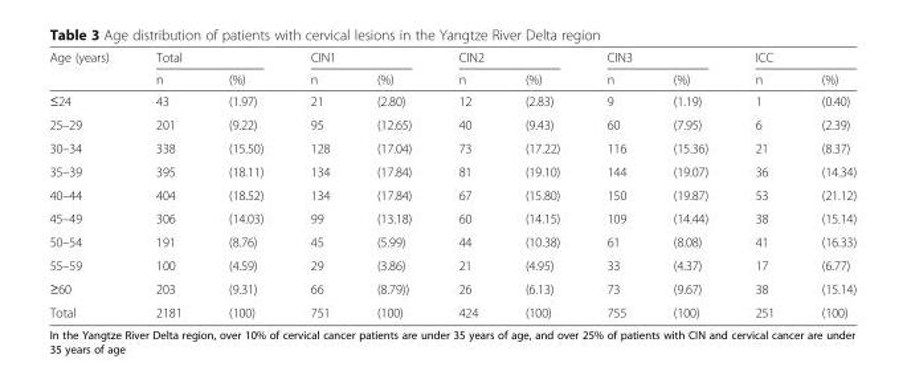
<table><thead><tr><td rowspan="2">Age (years)</td><td colspan="2">Total</td><td colspan="2">CIN1</td><td colspan="2">CIN2</td><td colspan="2">CIN3</td><td colspan="2">ICC</td></tr><tr><td>n</td><td>(%)</td><td>n</td><td>(%)</td><td>n</td><td>(%)</td><td>n</td><td>(%)</td><td>n</td><td>(%)</td></tr></thead><tbody><tr><td>≤24</td><td>43</td><td>(1.97)</td><td>21</td><td>(2.80)</td><td>12</td><td>(2.83)</td><td>9</td><td>(1.19)</td><td>1</td><td>(0.40)</td></tr><tr><td>25–29</td><td>201</td><td>(9.22)</td><td>95</td><td>(12.65)</td><td>40</td><td>(9.43)</td><td>60</td><td>(7.95)</td><td>6</td><td>(2.39)</td></tr><tr><td>30–34</td><td>338</td><td>(15.50)</td><td>128</td><td>(17.04)</td><td>73</td><td>(17.22)</td><td>116</td><td>(15.36)</td><td>21</td><td>(8.37)</td></tr><tr><td>35–39</td><td>395</td><td>(18.11)</td><td>134</td><td>(17.84)</td><td>81</td><td>(19.10)</td><td>144</td><td>(19.07)</td><td>36</td><td>(14.34)</td></tr><tr><td>40–44</td><td>404</td><td>(18.52)</td><td>134</td><td>(17.84)</td><td>67</td><td>(15.80)</td><td>150</td><td>(19.87)</td><td>53</td><td>(21.12)</td></tr><tr><td>45–49</td><td>306</td><td>(14.03)</td><td>99</td><td>(13.18)</td><td>60</td><td>(14.15)</td><td>109</td><td>(14.44)</td><td>38</td><td>(15.14)</td></tr><tr><td>50–54</td><td>191</td><td>(8.76)</td><td>45</td><td>(5.99)</td><td>44</td><td>(10.38)</td><td>61</td><td>(8.08)</td><td>41</td><td>(16.33)</td></tr><tr><td>55–59</td><td>100</td><td>(4.59)</td><td>29</td><td>(3.86)</td><td>21</td><td>(4.95)</td><td>33</td><td>(4.37)</td><td>17</td><td>(6.77)</td></tr><tr><td>≥60</td><td>203</td><td>(9.31)</td><td>66</td><td>(8.79))</td><td>26</td><td>(6.13)</td><td>73</td><td>(9.67)</td><td>38</td><td>(15.14)</td></tr><tr><td>Total</td><td>2181</td><td>(100)</td><td>751</td><td>(100)</td><td>424</td><td>(100)</td><td>755</td><td>(100)</td><td>251</td><td>(100)</td></tr></tbody></table>